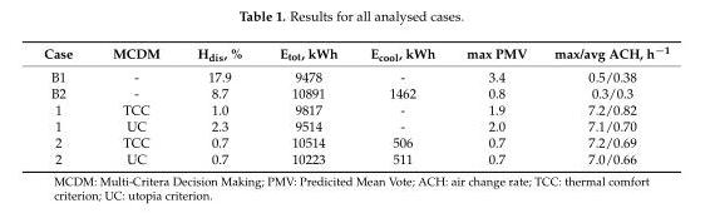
<table><thead><tr><td>Case</td><td>MCDM</td><td>H<sub>dis</sub>, %</td><td>E<sub>tot</sub>, kWh</td><td>E<sub>cool</sub>, kWh</td><td>max PMV</td><td>max/avg ACH, h<sup>−1</sup></td></tr></thead><tbody><tr><td>B1</td><td>-</td><td>17.9</td><td>9478</td><td>-</td><td>3.4</td><td>0.5/0.38</td></tr><tr><td>B2</td><td>-</td><td>8.7</td><td>10891</td><td>1462</td><td>0.8</td><td>0.3/0.3</td></tr><tr><td>1</td><td>TCC</td><td>1.0</td><td>9817</td><td>-</td><td>1.9</td><td>7.2/0.82</td></tr><tr><td>1</td><td>UC</td><td>2.3</td><td>9514</td><td>-</td><td>2.0</td><td>7.1/0.70</td></tr><tr><td>2</td><td>TCC</td><td>0.7</td><td>10514</td><td>506</td><td>0.7</td><td>7.2/0.69</td></tr><tr><td>2</td><td>UC</td><td>0.7</td><td>10223</td><td>511</td><td>0.7</td><td>7.0/0.66</td></tr></tbody></table>